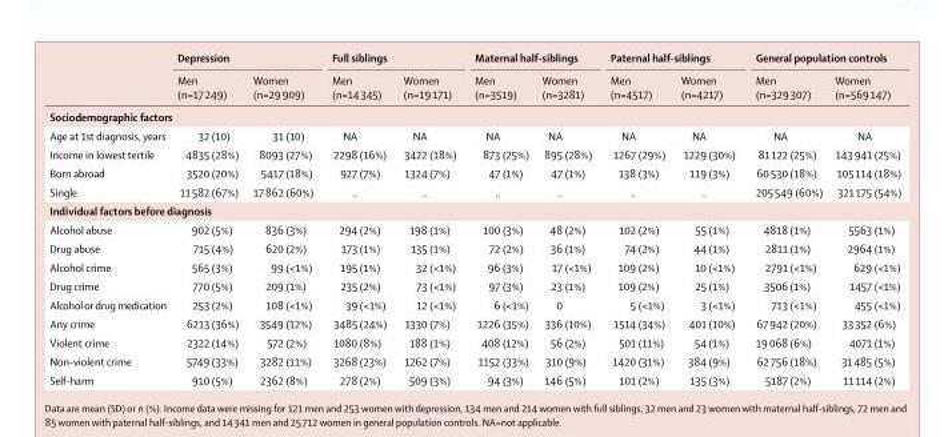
<table><thead><tr><td rowspan="2"></td><td colspan="2">Depression</td><td colspan="2">Full siblings</td><td colspan="2">Maternal half-siblings</td><td colspan="2">Paternal half-siblings</td><td colspan="2">General population controls</td></tr><tr><td>Men (n=17 249)</td><td>Women (n=29 909)</td><td>Men (n=14 345)</td><td>Women (n=19 171)</td><td>Men (n=3519)</td><td>Women (n=3281)</td><td>Men (n=4517)</td><td>Women (n=4217)</td><td>Men (n=329 307)</td><td>Women (n=569 147)</td></tr></thead><tbody><tr><td colspan="11">Sociodemographic factors</td></tr><tr><td>Age at 1st diagnosis, years</td><td>32 (10)</td><td>31 (10)</td><td>NA</td><td>NA</td><td>NA</td><td>NA</td><td>NA</td><td>NA</td><td>NA</td><td>NA</td></tr><tr><td>Income in lowest tertile</td><td>4835 (28%)</td><td>8093 (27%)</td><td>2298 (16%)</td><td>3422 (18%)</td><td>873 (25%)</td><td>895 (28%)</td><td>1267 (29%)</td><td>1229 (30%)</td><td>81 122 (25%)</td><td>143 941 (25%)</td></tr><tr><td>Born abroad</td><td>3520 (20%)</td><td>5417 (18%)</td><td>927 (7%)</td><td>1324 (7%)</td><td>47 (1%)</td><td>47 (1%)</td><td>138 (3%)</td><td>119 (3%)</td><td>60 530 (18%)</td><td>105 114 (18%)</td></tr><tr><td>Single</td><td>11 582 (67%)</td><td>17 862 (60%)</td><td>..</td><td>..</td><td>..</td><td>..</td><td>..</td><td>..</td><td>205 549 (60%)</td><td>321 175 (54%)</td></tr><tr><td colspan="11">Individual factors before diagnosis</td></tr><tr><td>Alcohol abuse</td><td>902 (5%)</td><td>836 (3%)</td><td>294 (2%)</td><td>198 (1%)</td><td>100 (3%)</td><td>48 (2%)</td><td>102 (2%)</td><td>55 (1%)</td><td>4818 (1%)</td><td>5563 (1%)</td></tr><tr><td>Drug abuse</td><td>715 (4%)</td><td>620 (2%)</td><td>173 (1%)</td><td>135 (1%)</td><td>72 (2%)</td><td>36 (1%)</td><td>74 (2%)</td><td>44 (1%)</td><td>2811 (1%)</td><td>2964 (1%)</td></tr><tr><td>Alcohol crime</td><td>565 (3%)</td><td>99 (&lt;1%)</td><td>195 (1%)</td><td>32 (&lt;1%)</td><td>96 (3%)</td><td>17 (&lt;1%)</td><td>109 (2%)</td><td>10 (&lt;1%)</td><td>2791 (&lt;1%)</td><td>629 (&lt;1%)</td></tr><tr><td>Drug crime</td><td>770 (5%)</td><td>209 (1%)</td><td>235 (2%)</td><td>73 (&lt;1%)</td><td>97 (3%)</td><td>23 (1%)</td><td>109 (2%)</td><td>25 (1%)</td><td>3506 (1%)</td><td>1457 (&lt;1%)</td></tr><tr><td>Alcohol or drug medication</td><td>253 (2%)</td><td>108 (&lt;1%)</td><td>39 (&lt;1%)</td><td>12 (&lt;1%)</td><td>6 (&lt;1%)</td><td>0</td><td>5 (&lt;1%)</td><td>3 (&lt;1%)</td><td>713 (&lt;1%)</td><td>455 (&lt;1%)</td></tr><tr><td>Any crime</td><td>6213 (36%)</td><td>3549 (12%)</td><td>3485 (24%)</td><td>1330 (7%)</td><td>1226 (35%)</td><td>336 (10%)</td><td>1514 (34%)</td><td>401 (10%)</td><td>67 942 (20%)</td><td>33 352 (6%)</td></tr><tr><td>Violent crime</td><td>2322 (14%)</td><td>572 (2%)</td><td>1080 (8%)</td><td>188 (1%)</td><td>408 (12%)</td><td>56 (2%)</td><td>501 (11%)</td><td>54 (1%)</td><td>19 068 (6%)</td><td>4071 (1%)</td></tr><tr><td>Non-violent crime</td><td>5749 (33%)</td><td>3282 (11%)</td><td>3268 (23%)</td><td>1262 (7%)</td><td>1152 (33%)</td><td>310 (9%)</td><td>1420 (31%)</td><td>384 (9%)</td><td>62 756 (18%)</td><td>31 485 (5%)</td></tr><tr><td>Self-harm</td><td>910 (5%)</td><td>2362 (8%)</td><td>278 (2%)</td><td>509 (3%)</td><td>94 (3%)</td><td>146 (5%)</td><td>101 (2%)</td><td>135 (3%)</td><td>5187 (2%)</td><td>11 114 (2%)</td></tr></tbody></table>